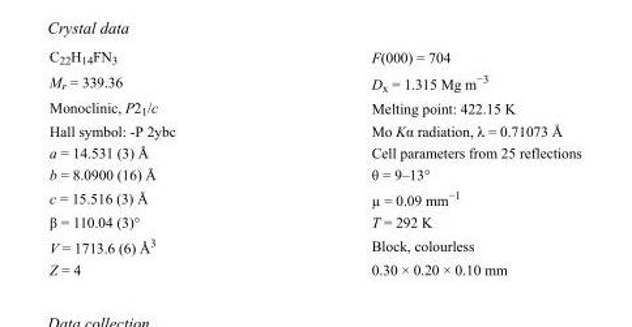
<table><tbody><tr><td>C<sub>22</sub>H<sub>14</sub>FN<sub>3</sub></td><td>F(000) = 704</td></tr><tr><td>M<sub>r</sub> = 339.36</td><td>D<sub>x</sub> = 1.315 Mg m<sup>−3</sup></td></tr><tr><td>Monoclinic, P2<sub>1</sub>/c</td><td>Melting point: 422.15 K</td></tr><tr><td>Hall symbol: -P 2ybc</td><td>Mo Kα radiation, λ = 0.71073 Å</td></tr><tr><td>a = 14.531 (3) Å</td><td>Cell parameters from 25 reflections</td></tr><tr><td>b = 8.0900 (16) Å</td><td>θ = 9–13°</td></tr><tr><td>c = 15.516 (3) Å</td><td>µ = 0.09 mm<sup>−1</sup></td></tr><tr><td>β = 110.04 (3)°</td><td>T = 292 K</td></tr><tr><td>V = 1713.6 (6) Å<sup>3</sup></td><td>Block, colourless</td></tr><tr><td>Z = 4</td><td>0.30 × 0.20 × 0.10 mm</td></tr></tbody></table>